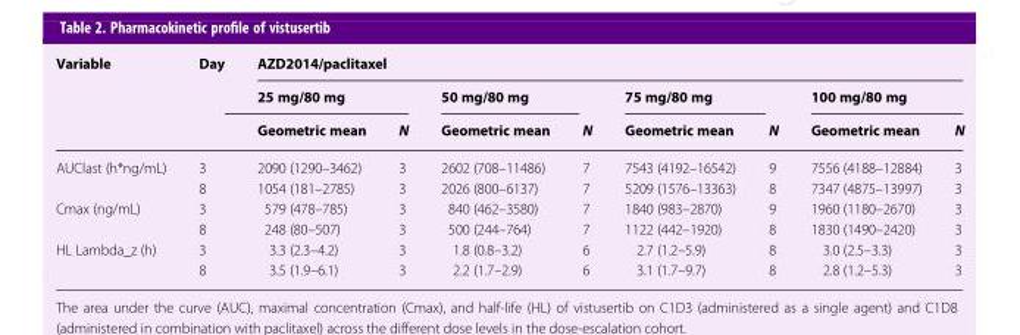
<table><thead><tr><td rowspan="3">Variable</td><td rowspan="3">Day</td><td colspan="8">AZD2014/paclitaxel</td></tr><tr><td colspan="2">25 mg/80 mg</td><td colspan="2">50 mg/80 mg</td><td colspan="2">75 mg/80 mg</td><td colspan="2">100 mg/80 mg</td></tr><tr><td>Geometric mean</td><td>N</td><td>Geometric mean</td><td>N</td><td>Geometric mean</td><td>N</td><td>Geometric mean</td><td>N</td></tr></thead><tbody><tr><td rowspan="2">AUClast (h*ng/mL)</td><td>3</td><td>2090 (1290–3462)</td><td>3</td><td>2602 (708–11486)</td><td>7</td><td>7543 (4192–16542)</td><td>9</td><td>7556 (4188–12884)</td><td>3</td></tr><tr><td>8</td><td>1054 (181–2785)</td><td>3</td><td>2026 (800–6137)</td><td>7</td><td>5209 (1576–13363)</td><td>8</td><td>7347 (4875–13997)</td><td>3</td></tr><tr><td rowspan="2">Cmax (ng/mL)</td><td>3</td><td>579 (478–785)</td><td>3</td><td>840 (462–3580)</td><td>7</td><td>1840 (983–2870)</td><td>9</td><td>1960 (1180–2670)</td><td>3</td></tr><tr><td>8</td><td>248 (80–507)</td><td>3</td><td>500 (244–764)</td><td>7</td><td>1122 (442–1920)</td><td>8</td><td>1830 (1490–2420)</td><td>3</td></tr><tr><td rowspan="2">HL Lambda_z (h)</td><td>3</td><td>3.3 (2.3–4.2)</td><td>3</td><td>1.8 (0.8–3.2)</td><td>6</td><td>2.7 (1.2–5.9)</td><td>8</td><td>3.0 (2.5–3.3)</td><td>3</td></tr><tr><td>8</td><td>3.5 (1.9–6.1)</td><td>3</td><td>2.2 (1.7–2.9)</td><td>6</td><td>3.1 (1.7–9.7)</td><td>8</td><td>2.8 (1.2–5.3)</td><td>3</td></tr></tbody></table>